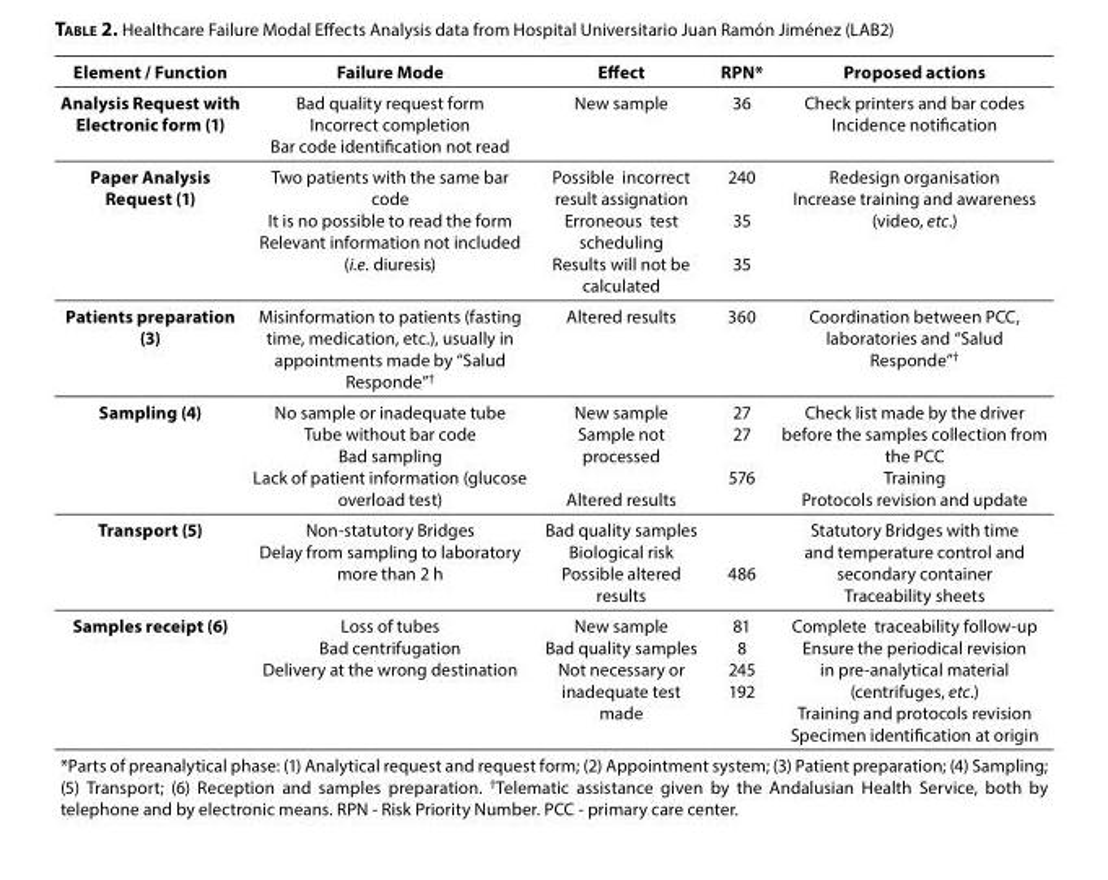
<table><thead><tr><td>Element / Function</td><td>Failure Mode</td><td>Effect</td><td>RPN*</td><td>Proposed actions</td></tr></thead><tbody><tr><td>Analysis Request with Electronic form (1)</td><td>Bad quality request form Incorrect completion Bar code identification not read</td><td>New sample</td><td>36</td><td>Check printers and bar codes Incidence notification</td></tr><tr><td>Paper Analysis Request (1)</td><td>Two patients with the same bar code It is no possible to read the form Relevant information not included (i.e. diuresis)</td><td>Possible incorrect result assignation Erroneous test scheduling Results will not be calculated</td><td>240 35 35</td><td>Redesign organisation Increase training and awareness (video, etc.)</td></tr><tr><td>Patients preparation (3)</td><td>Misinformation to patients (fasting time, medication, etc.), usually in appointments made by “Salud Responde”<sup>†</sup></td><td>Altered results</td><td>360</td><td>Coordination between PCC, laboratories and “Salud Responde”<sup>†</sup></td></tr><tr><td>Sampling (4)</td><td>No sample or inadequate tube Tube without bar code Bad sampling Lack of patient information (glucose overload test)</td><td>New sample Sample not processed Altered results</td><td>27 27 576</td><td>Check list made by the driver before the samples collection from the PCC Training Protocols revision and update</td></tr><tr><td>Transport (5)</td><td>Non-statutory Bridges Delay from sampling to laboratory more than 2 h</td><td>Bad quality samples Biological risk Possible altered results</td><td>486</td><td>Statutory Bridges with time and temperature control and secondary container Traceability sheets</td></tr><tr><td>Samples receipt (6)</td><td>Loss of tubes Bad centrifugation Delivery at the wrong destination</td><td>New sample Bad quality samples Not necessary or inadequate test made</td><td>81 8 245 192</td><td>Complete traceability follow-up Ensure the periodical revision in pre-analytical material (centrifuges, etc.) Training and protocols revision Specimen identification at origin</td></tr><tr><td colspan="5">*Parts of preanalytical phase: (1) Analytical request and request form; (2) Appointment system; (3) Patient preparation; (4) Sampling; (5) Transport; (6) Reception and samples preparation. <sup>†</sup>Telematic assistance given by the Andalusian Health Service, both by telephone and by electronic means. RPN - Risk Priority Number. PCC - primary care center.</td></tr></tbody></table>